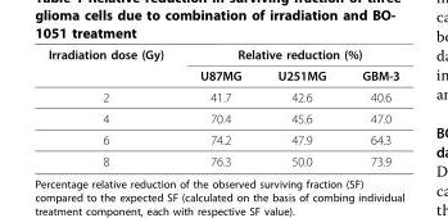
<table><thead><tr><td rowspan="2">Irradiation dose (Gy)</td><td colspan="3">Relative reduction (%)</td></tr><tr><td>U87MG</td><td>U251MG</td><td>GBM-3</td></tr></thead><tbody><tr><td>2</td><td>41.7</td><td>42.6</td><td>40.6</td></tr><tr><td>4</td><td>70.4</td><td>45.6</td><td>47.0</td></tr><tr><td>6</td><td>74.2</td><td>47.9</td><td>64.3</td></tr><tr><td>8</td><td>76.3</td><td>50.0</td><td>73.9</td></tr></tbody></table>